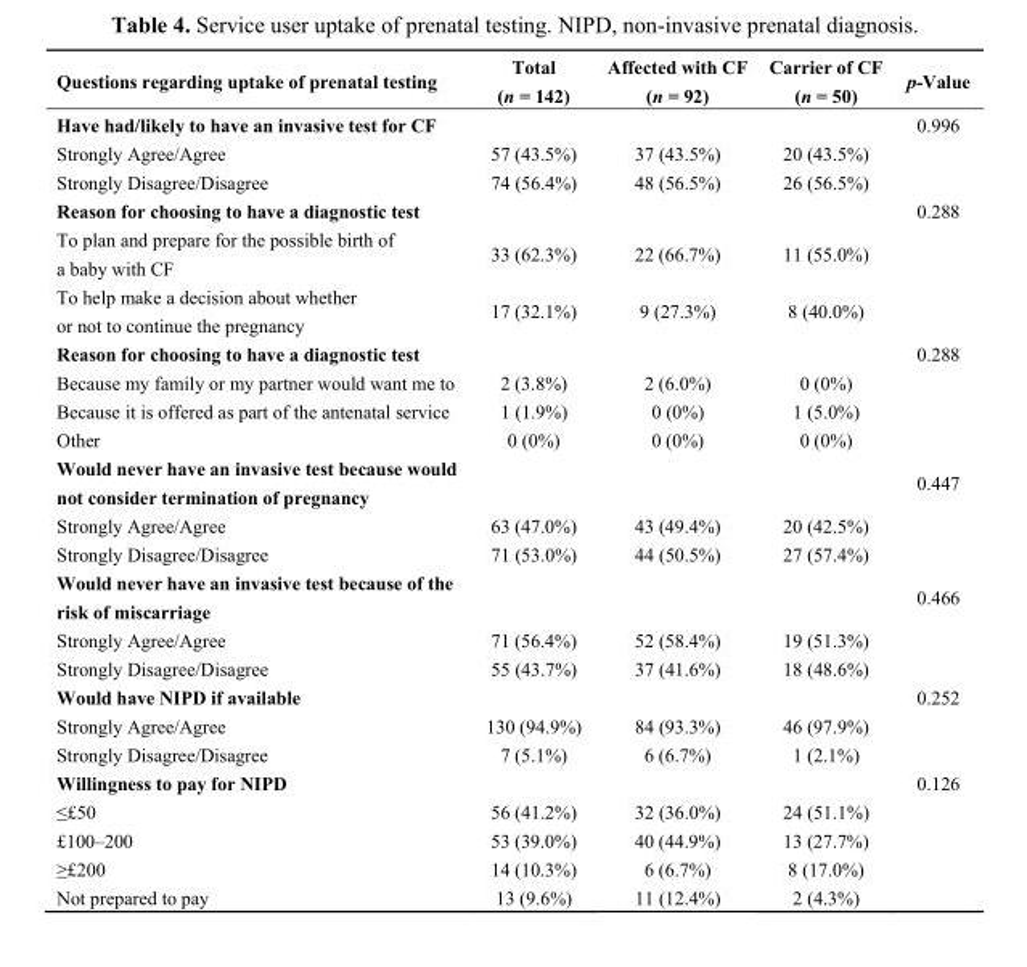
<table><thead><tr><td>Questions regarding uptake of prenatal testing</td><td>Total (n = 142)</td><td>Affected with CF (n = 92)</td><td>Carrier of CF (n = 50)</td><td>p-Value</td></tr></thead><tbody><tr><td>Have had/likely to have an invasive test for CF</td><td></td><td></td><td></td><td>0.996</td></tr><tr><td>Strongly Agree/Agree</td><td>57 (43.5%)</td><td>37 (43.5%)</td><td>20 (43.5%)</td><td></td></tr><tr><td>Strongly Disagree/Disagree</td><td>74 (56.4%)</td><td>48 (56.5%)</td><td>26 (56.5%)</td><td></td></tr><tr><td>Reason for choosing to have a diagnostic test</td><td></td><td></td><td></td><td>0.288</td></tr><tr><td>To plan and prepare for the possible birth of a baby with CF</td><td>33 (62.3%)</td><td>22 (66.7%)</td><td>11 (55.0%)</td><td></td></tr><tr><td>To help make a decision about whether or not to continue the pregnancy</td><td>17 (32.1%)</td><td>9 (27.3%)</td><td>8 (40.0%)</td><td></td></tr><tr><td>Reason for choosing to have a diagnostic test</td><td></td><td></td><td></td><td>0.288</td></tr><tr><td>Because my family or my partner would want me to</td><td>2 (3.8%)</td><td>2 (6.0%)</td><td>0 (0%)</td><td></td></tr><tr><td>Because it is offered as part of the antenatal service</td><td>1 (1.9%)</td><td>0 (0%)</td><td>1 (5.0%)</td><td></td></tr><tr><td>Other</td><td>0 (0%)</td><td>0 (0%)</td><td>0 (0%)</td><td></td></tr><tr><td>Would never have an invasive test because would not consider termination of pregnancy</td><td></td><td></td><td></td><td>0.447</td></tr><tr><td>Strongly Agree/Agree</td><td>63 (47.0%)</td><td>43 (49.4%)</td><td>20 (42.5%)</td><td></td></tr><tr><td>Strongly Disagree/Disagree</td><td>71 (53.0%)</td><td>44 (50.5%)</td><td>27 (57.4%)</td><td></td></tr><tr><td>Would never have an invasive test because of the risk of miscarriage</td><td></td><td></td><td></td><td>0.466</td></tr><tr><td>Strongly Agree/Agree</td><td>71 (56.4%)</td><td>52 (58.4%)</td><td>19 (51.3%)</td><td></td></tr><tr><td>Strongly Disagree/Disagree</td><td>55 (43.7%)</td><td>37 (41.6%)</td><td>18 (48.6%)</td><td></td></tr><tr><td>Would have NIPD if available</td><td></td><td></td><td></td><td>0.252</td></tr><tr><td>Strongly Agree/Agree</td><td>130 (94.9%)</td><td>84 (93.3%)</td><td>46 (97.9%)</td><td></td></tr><tr><td>Strongly Disagree/Disagree</td><td>7 (5.1%)</td><td>6 (6.7%)</td><td>1 (2.1%)</td><td></td></tr><tr><td>Willingness to pay for NIPD</td><td></td><td></td><td></td><td>0.126</td></tr><tr><td>≤£50</td><td>56 (41.2%)</td><td>32 (36.0%)</td><td>24 (51.1%)</td><td></td></tr><tr><td>£100–200</td><td>53 (39.0%)</td><td>40 (44.9%)</td><td>13 (27.7%)</td><td></td></tr><tr><td>≥£200</td><td>14 (10.3%)</td><td>6 (6.7%)</td><td>8 (17.0%)</td><td></td></tr><tr><td>Not prepared to pay</td><td>13 (9.6%)</td><td>11 (12.4%)</td><td>2 (4.3%)</td><td></td></tr></tbody></table>